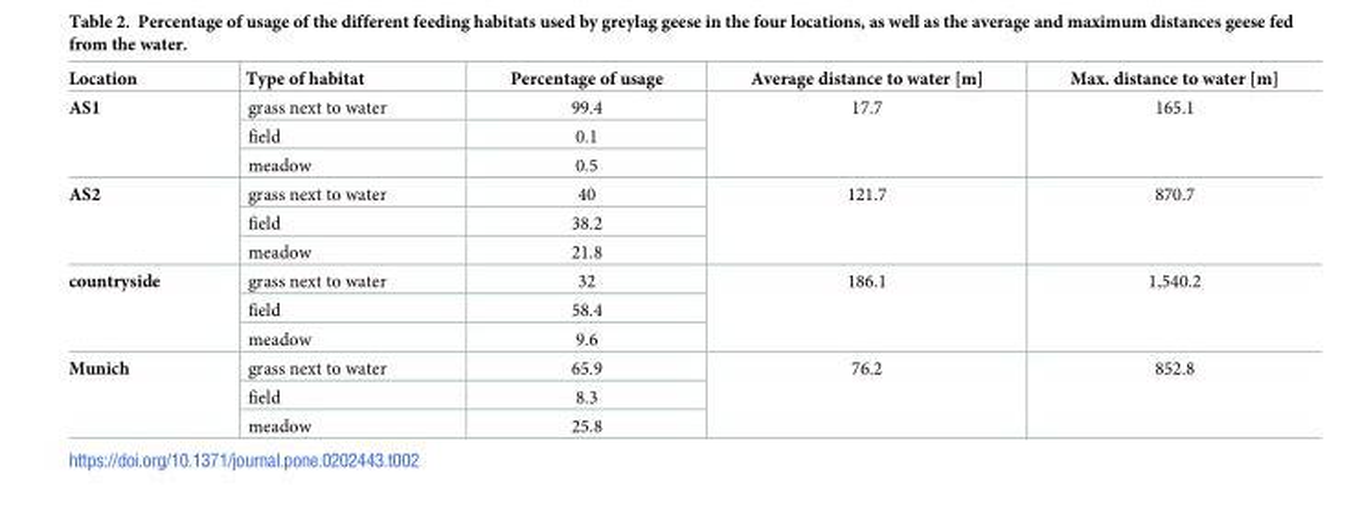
<table><thead><tr><td>Location</td><td>Type of habitat</td><td>Percentage of usage</td><td>Average distance to water [m]</td><td>Max. distance to water [m]</td></tr></thead><tbody><tr><td rowspan="3">AS1</td><td>grass next to water</td><td>99.4</td><td rowspan="3">17.7</td><td rowspan="3">165.1</td></tr><tr><td>field</td><td>0.1</td></tr><tr><td>meadow</td><td>0.5</td></tr><tr><td rowspan="3">AS2</td><td>grass next to water</td><td>40</td><td rowspan="3">121.7</td><td rowspan="3">870.7</td></tr><tr><td>field</td><td>38.2</td></tr><tr><td>meadow</td><td>21.8</td></tr><tr><td rowspan="3">countryside</td><td>grass next to water</td><td>32</td><td rowspan="3">186.1</td><td rowspan="3">1,540.2</td></tr><tr><td>field</td><td>58.4</td></tr><tr><td>meadow</td><td>9.6</td></tr><tr><td rowspan="3">Munich</td><td>grass next to water</td><td>65.9</td><td rowspan="3">76.2</td><td rowspan="3">852.8</td></tr><tr><td>field</td><td>8.3</td></tr><tr><td>meadow</td><td>25.8</td></tr></tbody></table>